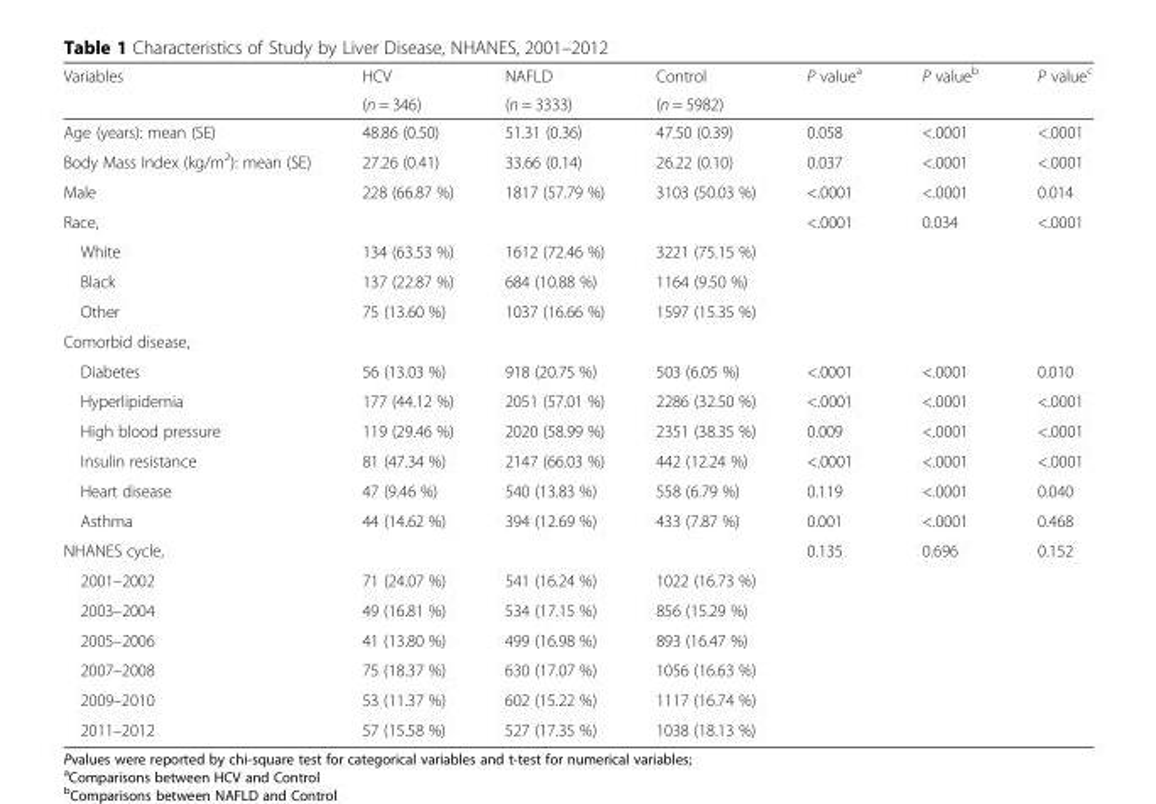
<table><thead><tr><td rowspan="2">Variables</td><td rowspan="2">HCV (n = 346)</td><td rowspan="2">NAFLD (n = 3333)</td><td rowspan="2">Control (n = 5982)</td><td rowspan="2">P value<sup>a</sup></td><td rowspan="2">P value<sup>b</sup></td><td rowspan="2">P value<sup>c</sup></td></tr><tr></tr></thead><tbody><tr><td>Age (years): mean (SE)</td><td>48.86 (0.50)</td><td>51.31 (0.36)</td><td>47.50 (0.39)</td><td>0.058</td><td>&lt;.0001</td><td>&lt;.0001</td></tr><tr><td>Body Mass Index (kg/m<sup>2</sup>): mean (SE)</td><td>27.26 (0.41)</td><td>33.66 (0.14)</td><td>26.22 (0.10)</td><td>0.037</td><td>&lt;.0001</td><td>&lt;.0001</td></tr><tr><td>Male</td><td>228 (66.87 %)</td><td>1817 (57.79 %)</td><td>3103 (50.03 %)</td><td>&lt;.0001</td><td>&lt;.0001</td><td>0.014</td></tr><tr><td>Race,</td><td></td><td></td><td></td><td>&lt;.0001</td><td>0.034</td><td>&lt;.0001</td></tr><tr><td>White</td><td>134 (63.53 %)</td><td>1612 (72.46 %)</td><td>3221 (75.15 %)</td><td></td><td></td><td></td></tr><tr><td>Black</td><td>137 (22.87 %)</td><td>684 (10.88 %)</td><td>1164 (9.50 %)</td><td></td><td></td><td></td></tr><tr><td>Other</td><td>75 (13.60 %)</td><td>1037 (16.66 %)</td><td>1597 (15.35 %)</td><td></td><td></td><td></td></tr><tr><td colspan="7">Comorbid disease,</td></tr><tr><td>Diabetes</td><td>56 (13.03 %)</td><td>918 (20.75 %)</td><td>503 (6.05 %)</td><td>&lt;.0001</td><td>&lt;.0001</td><td>0.010</td></tr><tr><td>Hyperlipidemia</td><td>177 (44.12 %)</td><td>2051 (57.01 %)</td><td>2286 (32.50 %)</td><td>&lt;.0001</td><td>&lt;.0001</td><td>&lt;.0001</td></tr><tr><td>High blood pressure</td><td>119 (29.46 %)</td><td>2020 (58.99 %)</td><td>2351 (38.35 %)</td><td>0.009</td><td>&lt;.0001</td><td>&lt;.0001</td></tr><tr><td>Insulin resistance</td><td>81 (47.34 %)</td><td>2147 (66.03 %)</td><td>442 (12.24 %)</td><td>&lt;.0001</td><td>&lt;.0001</td><td>&lt;.0001</td></tr><tr><td>Heart disease</td><td>47 (9.46 %)</td><td>540 (13.83 %)</td><td>558 (6.79 %)</td><td>0.119</td><td>&lt;.0001</td><td>0.040</td></tr><tr><td>Asthma</td><td>44 (14.62 %)</td><td>394 (12.69 %)</td><td>433 (7.87 %)</td><td>0.001</td><td>&lt;.0001</td><td>0.468</td></tr><tr><td>NHANES cycle,</td><td></td><td></td><td></td><td>0.135</td><td>0.696</td><td>0.152</td></tr><tr><td>2001–2002</td><td>71 (24.07 %)</td><td>541 (16.24 %)</td><td>1022 (16.73 %)</td><td></td><td></td><td></td></tr><tr><td>2003–2004</td><td>49 (16.81 %)</td><td>534 (17.15 %)</td><td>856 (15.29 %)</td><td></td><td></td><td></td></tr><tr><td>2005–2006</td><td>41 (13.80 %)</td><td>499 (16.98 %)</td><td>893 (16.47 %)</td><td></td><td></td><td></td></tr><tr><td>2007–2008</td><td>75 (18.37 %)</td><td>630 (17.07 %)</td><td>1056 (16.63 %)</td><td></td><td></td><td></td></tr><tr><td>2009–2010</td><td>53 (11.37 %)</td><td>602 (15.22 %)</td><td>1117 (16.74 %)</td><td></td><td></td><td></td></tr><tr><td>2011–2012</td><td>57 (15.58 %)</td><td>527 (17.35 %)</td><td>1038 (18.13 %)</td><td></td><td></td><td></td></tr></tbody></table>